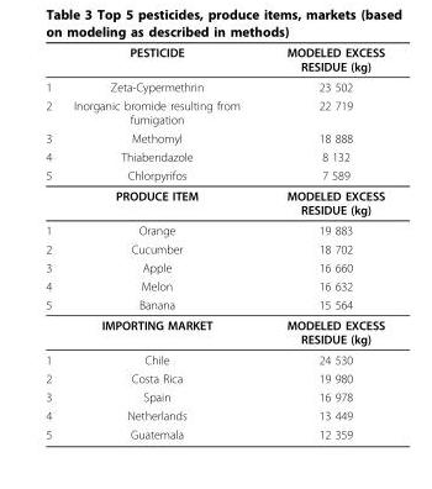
<table><thead><tr><td></td><td>PESTICIDE</td><td>MODELED EXCESS RESIDUE (kg)</td></tr></thead><tbody><tr><td>1</td><td>Zeta-Cypermethrin</td><td>23 502</td></tr><tr><td>2</td><td>Inorganic bromide resulting from fumigation</td><td>22 719</td></tr><tr><td>3</td><td>Methomyl</td><td>18 888</td></tr><tr><td>4</td><td>Thiabendazole</td><td>8 132</td></tr><tr><td rowspan="2">5</td><td>Chlorpyrifos</td><td>7 589</td></tr><tr><td>PRODUCE ITEM</td><td>MODELED EXCESS RESIDUE (kg)</td></tr><tr><td>1</td><td>Orange</td><td>19 883</td></tr><tr><td>2</td><td>Cucumber</td><td>18 702</td></tr><tr><td>3</td><td>Apple</td><td>16 660</td></tr><tr><td>4</td><td>Melon</td><td>16 632</td></tr><tr><td rowspan="2">5</td><td>Banana</td><td>15 564</td></tr><tr><td>IMPORTING MARKET</td><td>MODELED EXCESS RESIDUE (kg)</td></tr><tr><td>1</td><td>Chile</td><td>24 530</td></tr><tr><td>2</td><td>Costa Rica</td><td>19 980</td></tr><tr><td>3</td><td>Spain</td><td>16 978</td></tr><tr><td>4</td><td>Netherlands</td><td>13 449</td></tr><tr><td>5</td><td>Guatemala</td><td>12 359</td></tr></tbody></table>